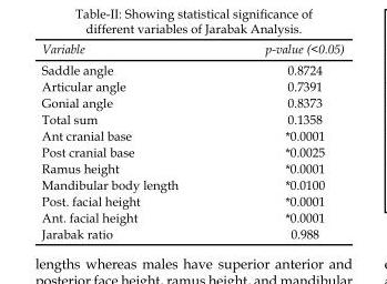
<table><thead><tr><td>Variable</td><td>p-value (&lt;0.05)</td></tr></thead><tbody><tr><td>Saddle angle</td><td>0.8724</td></tr><tr><td>Articular angle</td><td>0.7391</td></tr><tr><td>Gonial angle</td><td>0.8373</td></tr><tr><td>Total sum</td><td>0.1358</td></tr><tr><td>Ant cranial base</td><td>*0.0001</td></tr><tr><td>Post cranial base</td><td>*0.0025</td></tr><tr><td>Ramus height</td><td>*0.0001</td></tr><tr><td>Mandibular body length</td><td>*0.0100</td></tr><tr><td>Post. facial height</td><td>*0.0001</td></tr><tr><td>Ant. facial height</td><td>*0.0001</td></tr><tr><td>Jarabak ratio</td><td>0.988</td></tr></tbody></table>